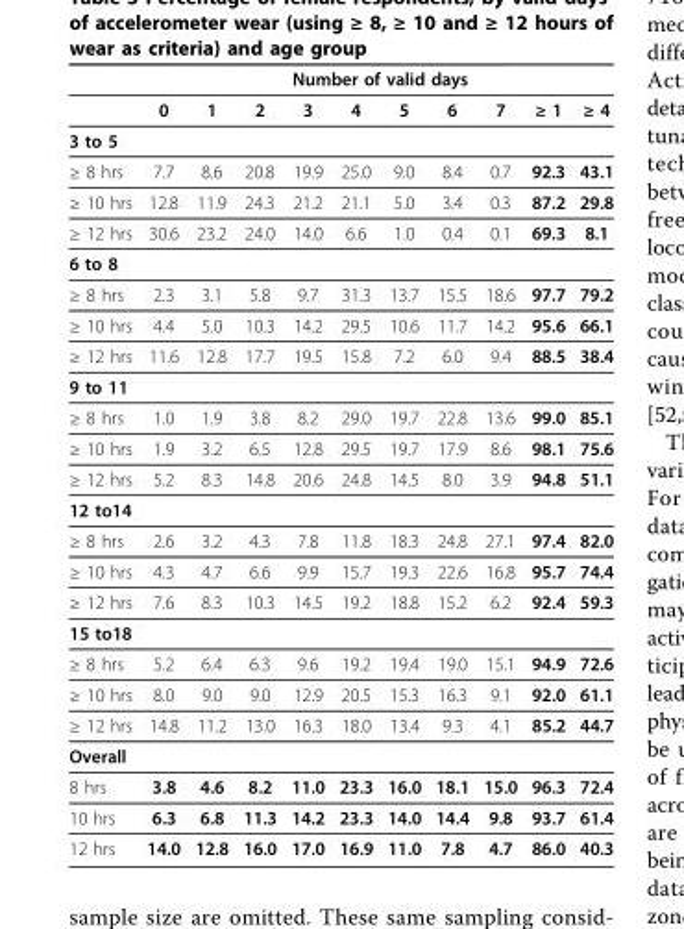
<table><thead><tr><td rowspan="2"></td><td colspan="10">Number of valid days</td></tr><tr><td>0</td><td>1</td><td>2</td><td>3</td><td>4</td><td>5</td><td>6</td><td>7</td><td>≥ 1</td><td>≥ 4</td></tr></thead><tbody><tr><td colspan="11">3 to 5</td></tr><tr><td>≥ 8 hrs</td><td>7.7</td><td>8.6</td><td>20.8</td><td>19.9</td><td>25.0</td><td>9.0</td><td>8.4</td><td>0.7</td><td>92.3</td><td>43.1</td></tr><tr><td>≥ 10 hrs</td><td>12.8</td><td>11.9</td><td>24.3</td><td>21.2</td><td>21.1</td><td>5.0</td><td>3.4</td><td>0.3</td><td>87.2</td><td>29.8</td></tr><tr><td>≥ 12 hrs</td><td>30.6</td><td>23.2</td><td>24.0</td><td>14.0</td><td>6.6</td><td>1.0</td><td>0.4</td><td>0.1</td><td>69.3</td><td>8.1</td></tr><tr><td colspan="11">6 to 8</td></tr><tr><td>≥ 8 hrs</td><td>2.3</td><td>3.1</td><td>5.8</td><td>9.7</td><td>31.3</td><td>13.7</td><td>15.5</td><td>18.6</td><td>97.7</td><td>79.2</td></tr><tr><td>≥ 10 hrs</td><td>4.4</td><td>5.0</td><td>10.3</td><td>14.2</td><td>29.5</td><td>10.6</td><td>11.7</td><td>14.2</td><td>95.6</td><td>66.1</td></tr><tr><td>≥ 12 hrs</td><td>11.6</td><td>12.8</td><td>17.7</td><td>19.5</td><td>15.8</td><td>7.2</td><td>6.0</td><td>9.4</td><td>88.5</td><td>38.4</td></tr><tr><td colspan="11">9 to 11</td></tr><tr><td>≥ 8 hrs</td><td>1.0</td><td>1.9</td><td>3.8</td><td>8.2</td><td>29.0</td><td>19.7</td><td>22.8</td><td>13.6</td><td>99.0</td><td>85.1</td></tr><tr><td>≥ 10 hrs</td><td>1.9</td><td>3.2</td><td>6.5</td><td>12.8</td><td>29.5</td><td>19.7</td><td>17.9</td><td>8.6</td><td>98.1</td><td>75.6</td></tr><tr><td>≥ 12 hrs</td><td>5.2</td><td>8.3</td><td>14.8</td><td>20.6</td><td>24.8</td><td>14.5</td><td>8.0</td><td>3.9</td><td>94.8</td><td>51.1</td></tr><tr><td colspan="11">12 to14</td></tr><tr><td>≥ 8 hrs</td><td>2.6</td><td>3.2</td><td>4.3</td><td>7.8</td><td>11.8</td><td>18.3</td><td>24.8</td><td>27.1</td><td>97.4</td><td>82.0</td></tr><tr><td>≥ 10 hrs</td><td>4.3</td><td>4.7</td><td>6.6</td><td>9.9</td><td>15.7</td><td>19.3</td><td>22.6</td><td>16.8</td><td>95.7</td><td>74.4</td></tr><tr><td>≥ 12 hrs</td><td>7.6</td><td>8.3</td><td>10.3</td><td>14.5</td><td>19.2</td><td>18.8</td><td>15.2</td><td>6.2</td><td>92.4</td><td>59.3</td></tr><tr><td colspan="11">15 to18</td></tr><tr><td>≥ 8 hrs</td><td>5.2</td><td>6.4</td><td>6.3</td><td>9.6</td><td>19.2</td><td>19.4</td><td>19.0</td><td>15.1</td><td>94.9</td><td>72.6</td></tr><tr><td>≥ 10 hrs</td><td>8.0</td><td>9.0</td><td>9.0</td><td>12.9</td><td>20.5</td><td>15.3</td><td>16.3</td><td>9.1</td><td>92.0</td><td>61.1</td></tr><tr><td>≥ 12 hrs</td><td>14.8</td><td>11.2</td><td>13.0</td><td>16.3</td><td>18.0</td><td>13.4</td><td>9.3</td><td>4.1</td><td>85.2</td><td>44.7</td></tr><tr><td colspan="11">Overall</td></tr><tr><td>8 hrs</td><td>3.8</td><td>4.6</td><td>8.2</td><td>11.0</td><td>23.3</td><td>16.0</td><td>18.1</td><td>15.0</td><td>96.3</td><td>72.4</td></tr><tr><td>10 hrs</td><td>6.3</td><td>6.8</td><td>11.3</td><td>14.2</td><td>23.3</td><td>14.0</td><td>14.4</td><td>9.8</td><td>93.7</td><td>61.4</td></tr><tr><td>12 hrs</td><td>14.0</td><td>12.8</td><td>16.0</td><td>17.0</td><td>16.9</td><td>11.0</td><td>7.8</td><td>4.7</td><td>86.0</td><td>40.3</td></tr></tbody></table>